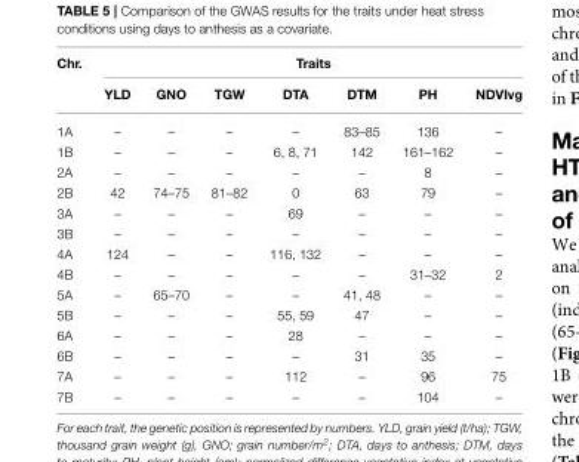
<table><thead><tr><td rowspan="2">Chr.</td><td colspan="7">Traits</td></tr><tr><td>YLD</td><td>GNO</td><td>TGW</td><td>DTA</td><td>DTM</td><td>PH</td><td>NDVIvg</td></tr></thead><tbody><tr><td>1A</td><td>–</td><td>–</td><td>–</td><td>–</td><td>83–85</td><td>136</td><td>–</td></tr><tr><td>1B</td><td>–</td><td>–</td><td>–</td><td>6, 8, 71</td><td>142</td><td>161–162</td><td>–</td></tr><tr><td>2A</td><td>–</td><td>–</td><td>–</td><td>–</td><td>–</td><td>8</td><td>–</td></tr><tr><td>2B</td><td>42</td><td>74–75</td><td>81–82</td><td>0</td><td>63</td><td>79</td><td>–</td></tr><tr><td>3A</td><td>–</td><td>–</td><td>–</td><td>69</td><td>–</td><td>–</td><td>–</td></tr><tr><td>3B</td><td>–</td><td>–</td><td>–</td><td>–</td><td>–</td><td>–</td><td>–</td></tr><tr><td>4A</td><td>124</td><td>–</td><td>–</td><td>116, 132</td><td>–</td><td>–</td><td>–</td></tr><tr><td>4B</td><td>–</td><td>–</td><td>–</td><td>–</td><td>–</td><td>31–32</td><td>2</td></tr><tr><td>5A</td><td>–</td><td>65–70</td><td>–</td><td>–</td><td>41, 48</td><td>–</td><td>–</td></tr><tr><td>5B</td><td>–</td><td>–</td><td>–</td><td>55, 59</td><td>47</td><td>–</td><td>–</td></tr><tr><td>6A</td><td>–</td><td>–</td><td>–</td><td>28</td><td>–</td><td>–</td><td>–</td></tr><tr><td>6B</td><td>–</td><td>–</td><td>–</td><td>–</td><td>31</td><td>35</td><td>–</td></tr><tr><td>7A</td><td>–</td><td>–</td><td>–</td><td>112</td><td>–</td><td>96</td><td>75</td></tr><tr><td>7B</td><td>–</td><td>–</td><td>–</td><td>–</td><td>–</td><td>104</td><td>–</td></tr></tbody></table>